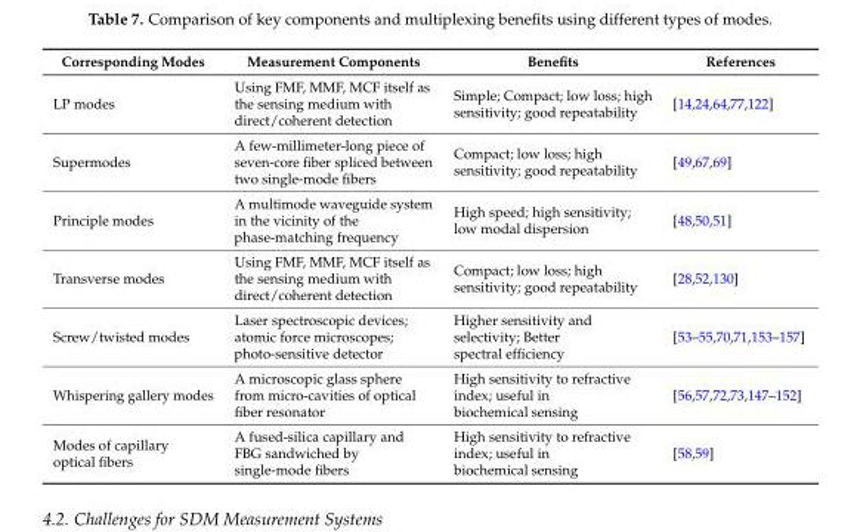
<table><thead><tr><td>Corresponding Modes</td><td>Measurement Components</td><td>Benefits</td><td>References</td></tr></thead><tbody><tr><td>LP modes</td><td>Using FMF, MMF, MCF itself as the sensing medium with direct/coherent detection</td><td>Simple; Compact; low loss; high sensitivity; good repeatability</td><td>[14,24,64,77,122]</td></tr><tr><td>Supermodes</td><td>A few-millimeter-long piece of seven-core fiber spliced between two single-mode fibers</td><td>Compact; low loss; high sensitivity; good repeatability</td><td>[49,67,69]</td></tr><tr><td>Principle modes</td><td>A multimode waveguide system in the vicinity of the phase-matching frequency</td><td>High speed; high sensitivity; low modal dispersion</td><td>[48,50,51]</td></tr><tr><td>Transverse modes</td><td>Using FMF, MMF, MCF itself as the sensing medium with direct/coherent detection</td><td>Compact; low loss; high sensitivity; good repeatability</td><td>[28,52,130]</td></tr><tr><td>Screw/twisted modes</td><td>Laser spectroscopic devices; atomic force microscopes; photo-sensitive detector</td><td>Higher sensitivity and selectivity; Better spectral efficiency</td><td>[53–55,70,71,153–157]</td></tr><tr><td>Whispering gallery modes</td><td>A microscopic glass sphere from micro-cavities of optical fiber resonator</td><td>High sensitivity to refractive index; useful in biochemical sensing</td><td>[56,57,72,73,147–152]</td></tr><tr><td>Modes of capillary optical fibers</td><td>A fused-silica capillary and FBG sandwiched by single-mode fibers</td><td>High sensitivity to refractive index; useful in biochemical sensing</td><td>[58,59]</td></tr></tbody></table>